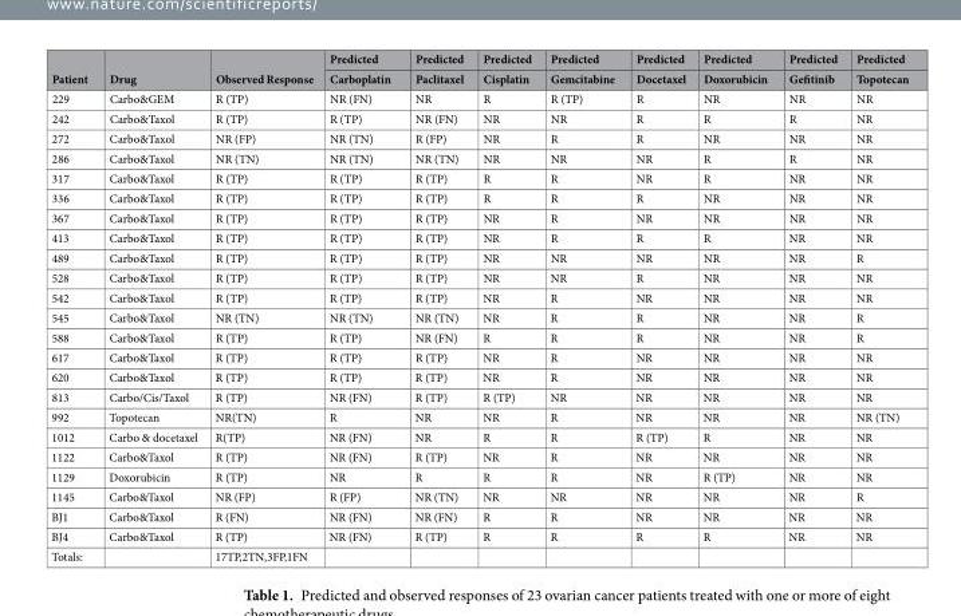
<table><thead><tr><td rowspan="2">Patient</td><td rowspan="2">Drug</td><td rowspan="2">Observed Response</td><td rowspan="2">Predicted Carboplatin</td><td rowspan="2">Predicted Paclitaxel</td><td rowspan="2">Predicted Cisplatin</td><td rowspan="2">Predicted Gemcitabine</td><td rowspan="2">Predicted Docetaxel</td><td rowspan="2">Predicted Doxorubicin</td><td rowspan="2">Predicted Gefitinib</td><td rowspan="2">Predicted Topotecan</td></tr><tr></tr></thead><tbody><tr><td>229</td><td>Carbo&amp;GEM</td><td>R (TP)</td><td>NR (FN)</td><td>NR</td><td>R</td><td>R (TP)</td><td>R</td><td>NR</td><td>NR</td><td>NR</td></tr><tr><td>242</td><td>Carbo&amp;Taxol</td><td>R (TP)</td><td>R (TP)</td><td>NR (FN)</td><td>NR</td><td>NR</td><td>R</td><td>R</td><td>R</td><td>NR</td></tr><tr><td>272</td><td>Carbo&amp;Taxol</td><td>NR (FP)</td><td>NR (TN)</td><td>R (FP)</td><td>NR</td><td>R</td><td>R</td><td>NR</td><td>NR</td><td>NR</td></tr><tr><td>286</td><td>Carbo&amp;Taxol</td><td>NR (TN)</td><td>NR (TN)</td><td>NR (TN)</td><td>NR</td><td>NR</td><td>NR</td><td>R</td><td>R</td><td>NR</td></tr><tr><td>317</td><td>Carbo&amp;Taxol</td><td>R (TP)</td><td>R (TP)</td><td>R (TP)</td><td>R</td><td>R</td><td>NR</td><td>R</td><td>NR</td><td>NR</td></tr><tr><td>336</td><td>Carbo&amp;Taxol</td><td>R (TP)</td><td>R (TP)</td><td>R (TP)</td><td>R</td><td>R</td><td>R</td><td>NR</td><td>NR</td><td>NR</td></tr><tr><td>367</td><td>Carbo&amp;Taxol</td><td>R (TP)</td><td>R (TP)</td><td>R (TP)</td><td>NR</td><td>R</td><td>NR</td><td>NR</td><td>NR</td><td>NR</td></tr><tr><td>413</td><td>Carbo&amp;Taxol</td><td>R (TP)</td><td>R (TP)</td><td>R (TP)</td><td>NR</td><td>R</td><td>R</td><td>R</td><td>NR</td><td>NR</td></tr><tr><td>489</td><td>Carbo&amp;Taxol</td><td>R (TP)</td><td>R (TP)</td><td>R (TP)</td><td>NR</td><td>NR</td><td>NR</td><td>NR</td><td>NR</td><td>R</td></tr><tr><td>528</td><td>Carbo&amp;Taxol</td><td>R (TP)</td><td>R (TP)</td><td>R (TP)</td><td>NR</td><td>NR</td><td>R</td><td>NR</td><td>NR</td><td>NR</td></tr><tr><td>542</td><td>Carbo&amp;Taxol</td><td>R (TP)</td><td>R (TP)</td><td>R (TP)</td><td>NR</td><td>R</td><td>NR</td><td>NR</td><td>NR</td><td>NR</td></tr><tr><td>545</td><td>Carbo&amp;Taxol</td><td>NR (TN)</td><td>NR (TN)</td><td>NR (TN)</td><td>NR</td><td>R</td><td>R</td><td>NR</td><td>NR</td><td>R</td></tr><tr><td>588</td><td>Carbo&amp;Taxol</td><td>R (TP)</td><td>R (TP)</td><td>NR (FN)</td><td>R</td><td>R</td><td>R</td><td>NR</td><td>NR</td><td>R</td></tr><tr><td>617</td><td>Carbo&amp;Taxol</td><td>R (TP)</td><td>R (TP)</td><td>R (TP)</td><td>NR</td><td>R</td><td>NR</td><td>NR</td><td>NR</td><td>NR</td></tr><tr><td>620</td><td>Carbo&amp;Taxol</td><td>R (TP)</td><td>R (TP)</td><td>R (TP)</td><td>NR</td><td>R</td><td>NR</td><td>NR</td><td>NR</td><td>NR</td></tr><tr><td>813</td><td>Carbo/Cis/Taxol</td><td>R (TP)</td><td>NR (FN)</td><td>R (TP)</td><td>R (TP)</td><td>NR</td><td>NR</td><td>NR</td><td>NR</td><td>NR</td></tr><tr><td>992</td><td>Topotecan</td><td>NR(TN)</td><td>R</td><td>NR</td><td>NR</td><td>R</td><td>NR</td><td>NR</td><td>NR</td><td>NR (TN)</td></tr><tr><td>1012</td><td>Carbo &amp; docetaxel</td><td>R(TP)</td><td>NR (FN)</td><td>NR</td><td>R</td><td>R</td><td>R (TP)</td><td>R</td><td>NR</td><td>NR</td></tr><tr><td>1122</td><td>Carbo&amp;Taxol</td><td>R (TP)</td><td>NR (FN)</td><td>R (TP)</td><td>NR</td><td>R</td><td>NR</td><td>NR</td><td>NR</td><td>NR</td></tr><tr><td>1129</td><td>Doxorubicin</td><td>R (TP)</td><td>NR</td><td>R</td><td>R</td><td>R</td><td>NR</td><td>R (TP)</td><td>NR</td><td>NR</td></tr><tr><td>1145</td><td>Carbo&amp;Taxol</td><td>NR (FP)</td><td>R (FP)</td><td>NR (TN)</td><td>NR</td><td>NR</td><td>NR</td><td>NR</td><td>NR</td><td>R</td></tr><tr><td>BJ1</td><td>Carbo&amp;Taxol</td><td>R (FN)</td><td>NR (FN)</td><td>NR (FN)</td><td>R</td><td>R</td><td>NR</td><td>NR</td><td>NR</td><td>NR</td></tr><tr><td>BJ4</td><td>Carbo&amp;Taxol</td><td>R (TP)</td><td>NR (FN)</td><td>R (TP)</td><td>R</td><td>R</td><td>R</td><td>R</td><td>NR</td><td>NR</td></tr><tr><td>Totals:</td><td></td><td>17TP,2TN,3FP,1FN</td><td></td><td></td><td></td><td></td><td></td><td></td><td></td><td></td></tr></tbody></table>